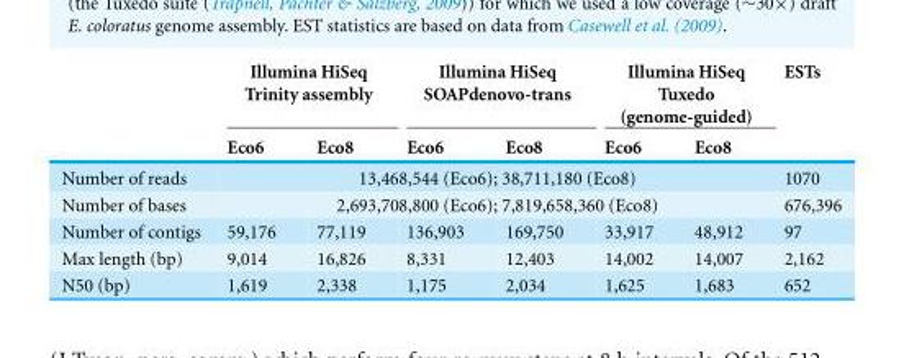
<table><thead><tr><td rowspan="2"></td><td colspan="2">Illumina HiSeq Trinity assembly</td><td colspan="2">Illumina HiSeq SOAPdenovo-trans</td><td colspan="2">Illumina HiSeq Tuxedo (genome-guided)</td><td rowspan="2">ESTs</td></tr><tr><td>Eco6</td><td>Eco8</td><td>Eco6</td><td>Eco8</td><td>Eco6</td><td>Eco8</td></tr></thead><tbody><tr><td>Number of reads</td><td colspan="6">13,468,544 (Eco6); 38,711,180 (Eco8)</td><td>1070</td></tr><tr><td>Number of bases</td><td colspan="6">2,693,708,800 (Eco6); 7,819,658,360 (Eco8)</td><td>676,396</td></tr><tr><td>Number of contigs</td><td>59,176</td><td>77,119</td><td>136,903</td><td>169,750</td><td>33,917</td><td>48,912</td><td>97</td></tr><tr><td>Max length (bp)</td><td>9,014</td><td>16,826</td><td>8,331</td><td>12,403</td><td>14,002</td><td>14,007</td><td>2,162</td></tr><tr><td>N50 (bp)</td><td>1,619</td><td>2,338</td><td>1,175</td><td>2,034</td><td>1,625</td><td>1,683</td><td>652</td></tr></tbody></table>